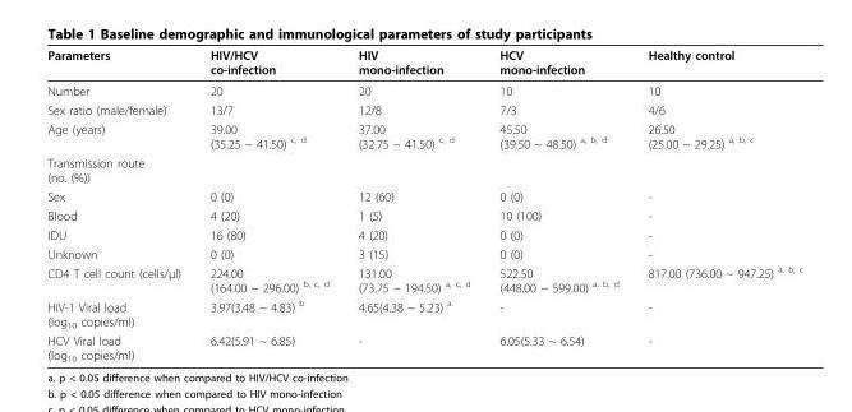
<table><thead><tr><td>Parameters</td><td>HIV/HCV co-infection</td><td>HIV mono-infection</td><td>HCV mono-infection</td><td>Healthy control</td></tr></thead><tbody><tr><td>Number</td><td>20</td><td>20</td><td>10</td><td>10</td></tr><tr><td>Sex ratio (male/female)</td><td>13/7</td><td>12/8</td><td>7/3</td><td>4/6</td></tr><tr><td>Age (years)</td><td>39.00 (35.25 ~ 41.50) <sup>c, d</sup></td><td>37.00 (32.75 ~ 41.50) <sup>c, d</sup></td><td>45.50 (39.50 ~ 48.50) <sup>a, b, d</sup></td><td>26.50 (25.00 ~ 29.25) <sup>a, b, c</sup></td></tr><tr><td colspan="5">Transmission route (no. (%))</td></tr><tr><td>Sex</td><td>0 (0)</td><td>12 (60)</td><td>0 (0)</td><td>-</td></tr><tr><td>Blood</td><td>4 (20)</td><td>1 (5)</td><td>10 (100)</td><td>-</td></tr><tr><td>IDU</td><td>16 (80)</td><td>4 (20)</td><td>0 (0)</td><td>-</td></tr><tr><td>Unknown</td><td>0 (0)</td><td>3 (15)</td><td>0 (0)</td><td>-</td></tr><tr><td>CD4 T cell count (cells/μl)</td><td>224.00 (164.00 ~ 296.00) <sup>b, c, d</sup></td><td>131.00 (73.75 ~ 194.50) <sup>a, c, d</sup></td><td>522.50 (448.00 ~ 599.00) <sup>a, b, d</sup></td><td>817.00 (736.00 ~ 947.25) <sup>a, b, c</sup></td></tr><tr><td>HIV-1 Viral load (log<sub>10</sub> copies/ml)</td><td>3.97(3.48 ~ 4.83) <sup>b</sup></td><td>4.65(4.38 ~ 5.23) <sup>a</sup></td><td>-</td><td>-</td></tr><tr><td>HCV Viral load (log<sub>10</sub> copies/ml)</td><td>6.42(5.91 ~ 6.85)</td><td>-</td><td>6.05(5.33 ~ 6.54)</td><td>-</td></tr></tbody></table>